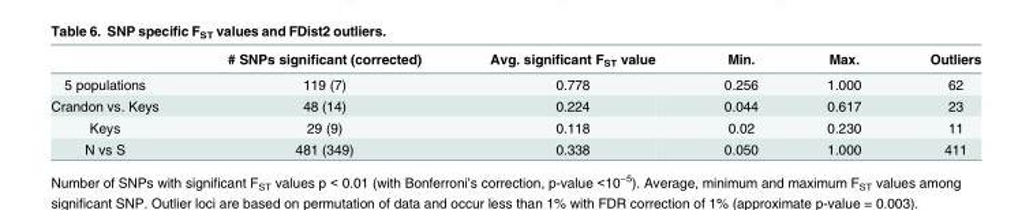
<table><thead><tr><td></td><td># SNPs significant (corrected)</td><td>Avg. significant F<sub>ST</sub> value</td><td>Min.</td><td>Max.</td><td>Outliers</td></tr></thead><tbody><tr><td>5 populations</td><td>119 (7)</td><td>0.778</td><td>0.256</td><td>1.000</td><td>62</td></tr><tr><td>Crandon vs. Keys</td><td>48 (14)</td><td>0.224</td><td>0.044</td><td>0.617</td><td>23</td></tr><tr><td>Keys</td><td>29 (9)</td><td>0.118</td><td>0.02</td><td>0.230</td><td>11</td></tr><tr><td>N vs S</td><td>481 (349)</td><td>0.338</td><td>0.050</td><td>1.000</td><td>411</td></tr></tbody></table>